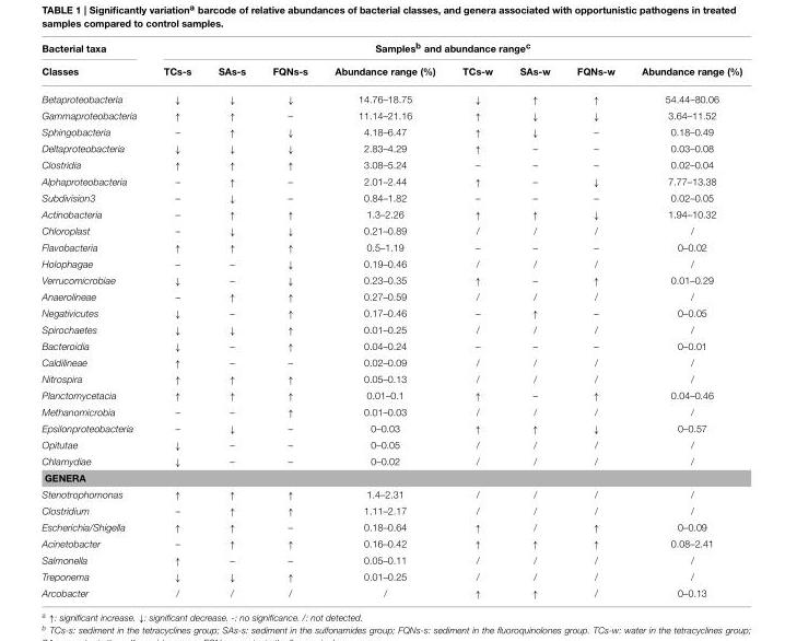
<table><thead><tr><td rowspan="2">Bacterial taxa Classes</td><td colspan="8">Samples<sup>b</sup> and abundance range<sup>c</sup></td></tr><tr><td>TCs-s</td><td>SAs-s</td><td>FQNs-s</td><td>Abundance range (%)</td><td>TCs-w</td><td>SAs-w</td><td>FQNs-w</td><td>Abundance range (%)</td></tr></thead><tbody><tr><td>Betaproteobacteria</td><td>↓</td><td>↓</td><td>↓</td><td>14.76–18.75</td><td>↓</td><td>↑</td><td>↑</td><td>54.44–80.06</td></tr><tr><td>Gammaproteobacteria</td><td>↑</td><td>↑</td><td>–</td><td>11.14–21.16</td><td>↑</td><td>↓</td><td>↓</td><td>3.64–11.52</td></tr><tr><td>Sphingobacteria</td><td>–</td><td>↑</td><td>↓</td><td>4.18–6.47</td><td>↑</td><td>↓</td><td>–</td><td>0.18–0.49</td></tr><tr><td>Deltaproteobacteria</td><td>↓</td><td>↓</td><td>↓</td><td>2.83–4.29</td><td>↑</td><td>–</td><td>–</td><td>0.03–0.08</td></tr><tr><td>Clostridia</td><td>↑</td><td>↑</td><td>↑</td><td>3.08–5.24</td><td>–</td><td>–</td><td>–</td><td>0.02–0.04</td></tr><tr><td>Alphaproteobacteria</td><td>–</td><td>↑</td><td>–</td><td>2.01–2.44</td><td>↑</td><td>–</td><td>↓</td><td>7.77–13.38</td></tr><tr><td>Subdivision3</td><td>–</td><td>↓</td><td>–</td><td>0.84–1.82</td><td>–</td><td>–</td><td>–</td><td>0.02–0.05</td></tr><tr><td>Actinobacteria</td><td>–</td><td>↑</td><td>↑</td><td>1.3–2.26</td><td>↑</td><td>↑</td><td>↓</td><td>1.94–10.32</td></tr><tr><td>Chloroplast</td><td>–</td><td>↓</td><td>↓</td><td>0.21–0.89</td><td>/</td><td>/</td><td>/</td><td>/</td></tr><tr><td>Flavobacteria</td><td>↑</td><td>↑</td><td>↑</td><td>0.5–1.19</td><td>–</td><td>–</td><td>–</td><td>0–0.02</td></tr><tr><td>Holophagae</td><td>–</td><td>–</td><td>↓</td><td>0.19–0.46</td><td>/</td><td>/</td><td>/</td><td>/</td></tr><tr><td>Verrucomicrobiae</td><td>↓</td><td>–</td><td>↓</td><td>0.23–0.35</td><td>↑</td><td>–</td><td>↑</td><td>0.01–0.29</td></tr><tr><td>Anaerolineae</td><td>–</td><td>↑</td><td>↑</td><td>0.27–0.59</td><td>/</td><td>/</td><td>/</td><td>/</td></tr><tr><td>Negativicutes</td><td>↓</td><td>–</td><td>↑</td><td>0.17–0.46</td><td>–</td><td>↑</td><td>–</td><td>0–0.05</td></tr><tr><td>Spirochaetes</td><td>↓</td><td>↓</td><td>↑</td><td>0.01–0.25</td><td>/</td><td>/</td><td>/</td><td>/</td></tr><tr><td>Bacteroidia</td><td>↓</td><td>–</td><td>↑</td><td>0.04–0.24</td><td>–</td><td>–</td><td>–</td><td>0–0.01</td></tr><tr><td>Caldilineae</td><td>↑</td><td>–</td><td>–</td><td>0.02–0.09</td><td>/</td><td>/</td><td>/</td><td>/</td></tr><tr><td>Nitrospira</td><td>↑</td><td>↑</td><td>↑</td><td>0.05–0.13</td><td>/</td><td>/</td><td>/</td><td>/</td></tr><tr><td>Planctomycetacia</td><td>↑</td><td>↑</td><td>↑</td><td>0.01–0.1</td><td>↑</td><td>–</td><td>↑</td><td>0.04–0.46</td></tr><tr><td>Methanomicrobia</td><td>–</td><td>–</td><td>↑</td><td>0.01–0.03</td><td>/</td><td>/</td><td>/</td><td>/</td></tr><tr><td>Epsilonproteobacteria</td><td>–</td><td>↓</td><td>–</td><td>0–0.03</td><td>↑</td><td>↑</td><td>↓</td><td>0–0.57</td></tr><tr><td>Opitutae</td><td>↓</td><td>–</td><td>–</td><td>0–0.05</td><td>/</td><td>/</td><td>/</td><td>/</td></tr><tr><td>Chlamydiae</td><td>↓</td><td>–</td><td>–</td><td>0–0.02</td><td>/</td><td>/</td><td>/</td><td>/</td></tr><tr><td colspan="9">GENERA</td></tr><tr><td>Stenotrophomonas</td><td>↑</td><td>↑</td><td>↑</td><td>1.4–2.31</td><td>/</td><td>/</td><td>/</td><td>/</td></tr><tr><td>Clostridium</td><td>–</td><td>↑</td><td>↑</td><td>1.11–2.17</td><td>/</td><td>/</td><td>/</td><td>/</td></tr><tr><td>Escherichia/Shigella</td><td>↑</td><td>↑</td><td>–</td><td>0.18–0.64</td><td>↑</td><td>/</td><td>↑</td><td>0–0.09</td></tr><tr><td>Acinetobacter</td><td>–</td><td>↑</td><td>↑</td><td>0.16–0.42</td><td>↑</td><td>↑</td><td>↑</td><td>0.08–2.41</td></tr><tr><td>Salmonella</td><td>↑</td><td>–</td><td>–</td><td>0.05–0.11</td><td>/</td><td>/</td><td>/</td><td>/</td></tr><tr><td>Treponema</td><td>↓</td><td>↓</td><td>↑</td><td>0.01–0.25</td><td>/</td><td>/</td><td>/</td><td>/</td></tr><tr><td>Arcobacter</td><td>/</td><td>/</td><td>/</td><td>/</td><td>↑</td><td>↑</td><td>/</td><td>0–0.13</td></tr></tbody></table>